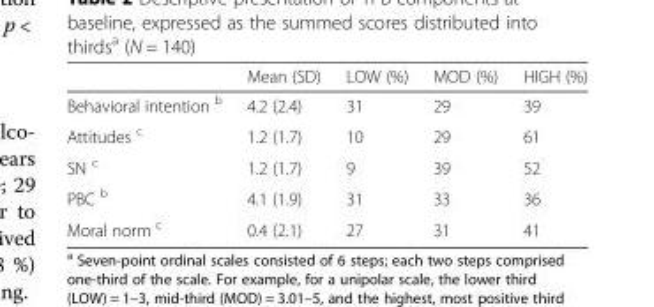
<table><thead><tr><td></td><td>Mean (SD)</td><td>LOW (%)</td><td>MOD (%)</td><td>HIGH (%)</td></tr></thead><tbody><tr><td>Behavioral intention <sup>b</sup></td><td>4.2 (2.4)</td><td>31</td><td>29</td><td>39</td></tr><tr><td>Attitudes <sup>c</sup></td><td>1.2 (1.7)</td><td>10</td><td>29</td><td>61</td></tr><tr><td>SN <sup>c</sup></td><td>1.2 (1.7)</td><td>9</td><td>39</td><td>52</td></tr><tr><td>PBC <sup>b</sup></td><td>4.1 (1.9)</td><td>31</td><td>33</td><td>36</td></tr><tr><td>Moral norm <sup>c</sup></td><td>0.4 (2.1)</td><td>27</td><td>31</td><td>41</td></tr></tbody></table>